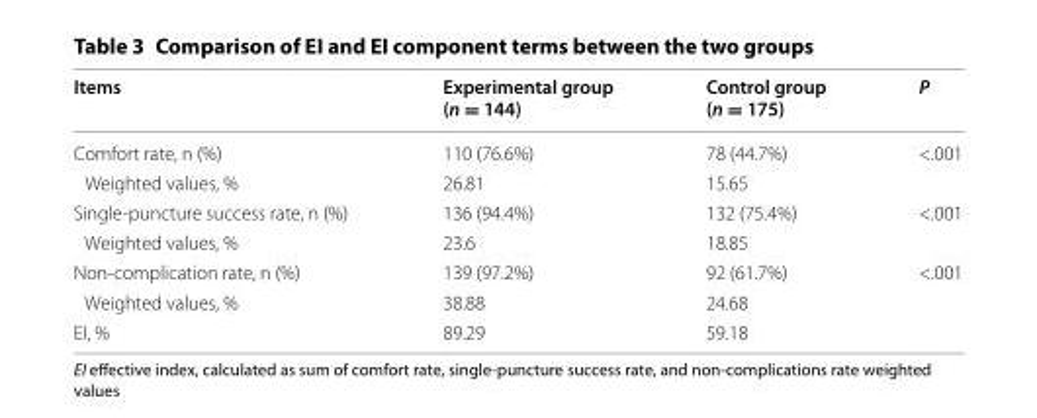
<table><thead><tr><td>Items</td><td>Experimental group (n = 144)</td><td>Control group (n = 175)</td><td>P</td></tr></thead><tbody><tr><td>Comfort rate, n (%)</td><td>110 (76.6%)</td><td>78 (44.7%)</td><td>&lt;.001</td></tr><tr><td>Weighted values, %</td><td>26.81</td><td>15.65</td><td></td></tr><tr><td>Single-puncture success rate, n (%)</td><td>136 (94.4%)</td><td>132 (75.4%)</td><td>&lt;.001</td></tr><tr><td>Weighted values, %</td><td>23.6</td><td>18.85</td><td></td></tr><tr><td>Non-complication rate, n (%)</td><td>139 (97.2%)</td><td>92 (61.7%)</td><td>&lt;.001</td></tr><tr><td>Weighted values, %</td><td>38.88</td><td>24.68</td><td></td></tr><tr><td>EI, %</td><td>89.29</td><td>59.18</td><td></td></tr></tbody></table>